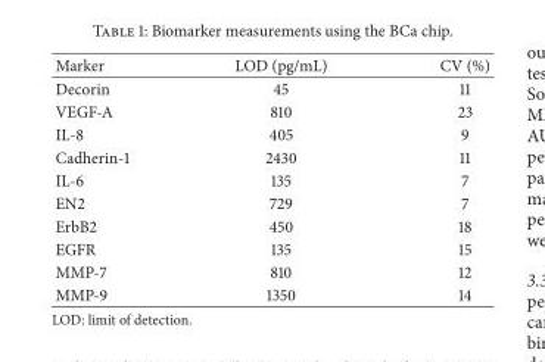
<table><thead><tr><td>Marker</td><td>LOD (pg/mL)</td><td>CV (%)</td></tr></thead><tbody><tr><td>Decorin</td><td>45</td><td>11</td></tr><tr><td>VEGF-A</td><td>810</td><td>23</td></tr><tr><td>IL-8</td><td>405</td><td>9</td></tr><tr><td>Cadherin-1</td><td>2430</td><td>11</td></tr><tr><td>IL-6</td><td>135</td><td>7</td></tr><tr><td>EN2</td><td>729</td><td>7</td></tr><tr><td>ErbB2</td><td>450</td><td>18</td></tr><tr><td>EGFR</td><td>135</td><td>15</td></tr><tr><td>MMP-7</td><td>810</td><td>12</td></tr><tr><td>MMP-9</td><td>1350</td><td>14</td></tr></tbody></table>